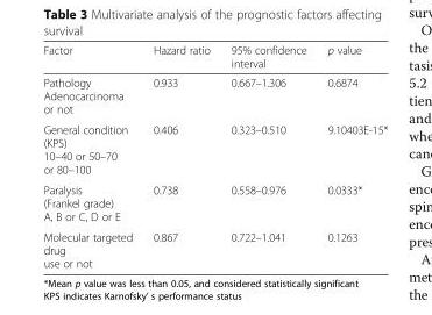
<table><thead><tr><td>Factor</td><td>Hazard ratio</td><td>95% confidence interval</td><td>p value</td></tr></thead><tbody><tr><td>Pathology Adenocarcinoma or not</td><td>0.933</td><td>0.667–1.306</td><td>0.6874</td></tr><tr><td>General condition (KPS) 10–40 or 50–70 or 80–100</td><td>0.406</td><td>0.323–0.510</td><td>9.10403E-15*</td></tr><tr><td>Paralysis (Frankel grade) A, B or C, D or E</td><td>0.738</td><td>0.558–0.976</td><td>0.0333*</td></tr><tr><td>Molecular targeted drug use or not</td><td>0.867</td><td>0.722–1.041</td><td>0.1263</td></tr></tbody></table>